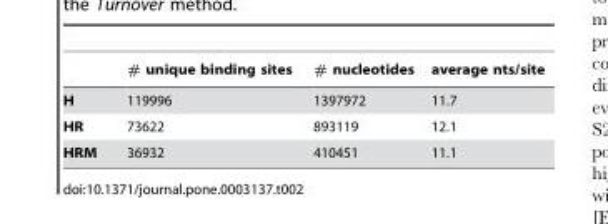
<table><thead><tr><td></td><td># unique binding sites</td><td># nucleotides</td><td>average nts/site</td></tr></thead><tbody><tr><td>H</td><td>119996</td><td>1397972</td><td>11.7</td></tr><tr><td>HR</td><td>73622</td><td>893119</td><td>12.1</td></tr><tr><td>HRM</td><td>36932</td><td>410451</td><td>11.1</td></tr></tbody></table>